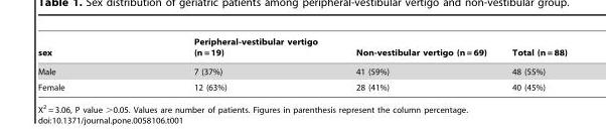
<table><thead><tr><td>sex</td><td>Peripheral-vestibular vertigo (n = 19)</td><td>Non-vestibular vertigo (n = 69)</td><td>Total (n = 88)</td></tr></thead><tbody><tr><td>Male</td><td>7 (37%)</td><td>41 (59%)</td><td>48 (55%)</td></tr><tr><td>Female</td><td>12 (63%)</td><td>28 (41%)</td><td>40 (45%)</td></tr></tbody></table>